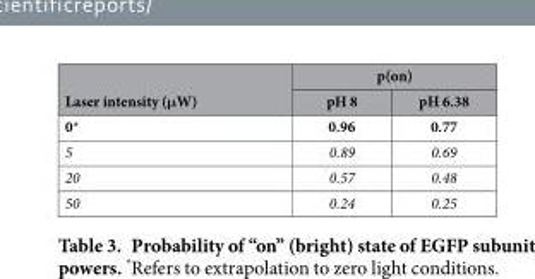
<table><thead><tr><td rowspan="2">Laser intensity (μW)</td><td colspan="2">p(on)</td></tr><tr><td>pH 8</td><td>pH 6.38</td></tr></thead><tbody><tr><td>0*</td><td>0.96</td><td>0.77</td></tr><tr><td>5</td><td>0.89</td><td>0.69</td></tr><tr><td>20</td><td>0.57</td><td>0.48</td></tr><tr><td>50</td><td>0.24</td><td>0.25</td></tr></tbody></table>